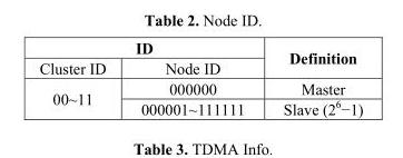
<table><thead><tr><td colspan="2">ID</td><td rowspan="2">Definition</td></tr><tr><td>Cluster ID</td><td>Node ID</td></tr></thead><tbody><tr><td rowspan="2">00~11</td><td>000000</td><td>Master</td></tr><tr><td>000001~111111</td><td>Slave (2<sup>6</sup>−1)</td></tr></tbody></table>